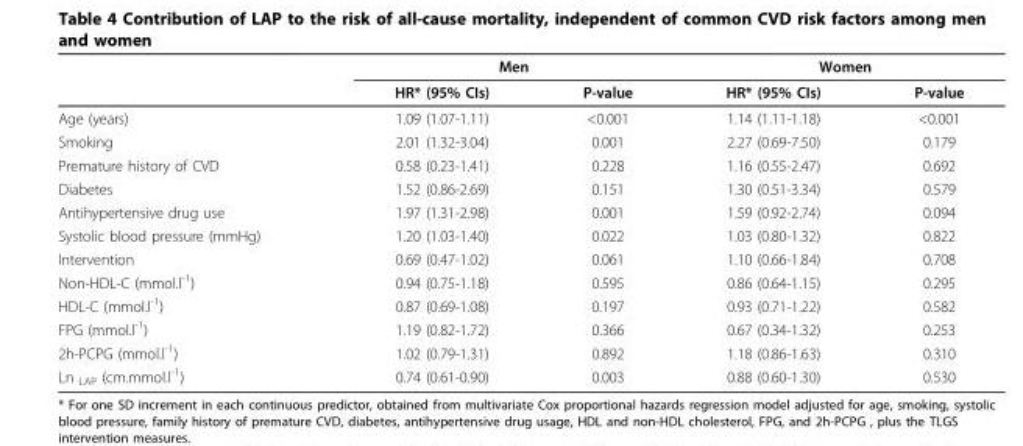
<table><thead><tr><td rowspan="2"></td><td colspan="2">Men</td><td colspan="2">Women</td></tr><tr><td>HR* (95% CIs)</td><td>P-value</td><td>HR* (95% CIs)</td><td>P-value</td></tr></thead><tbody><tr><td>Age (years)</td><td>1.09 (1.07-1.11)</td><td>&lt;0.001</td><td>1.14 (1.11-1.18)</td><td>&lt;0.001</td></tr><tr><td>Smoking</td><td>2.01 (1.32-3.04)</td><td>0.001</td><td>2.27 (0.69-7.50)</td><td>0.179</td></tr><tr><td>Premature history of CVD</td><td>0.58 (0.23-1.41)</td><td>0.228</td><td>1.16 (0.55-2.47)</td><td>0.692</td></tr><tr><td>Diabetes</td><td>1.52 (0.86-2.69)</td><td>0.151</td><td>1.30 (0.51-3.34)</td><td>0.579</td></tr><tr><td>Antihypertensive drug use</td><td>1.97 (1.31-2.98)</td><td>0.001</td><td>1.59 (0.92-2.74)</td><td>0.094</td></tr><tr><td>Systolic blood pressure (mmHg)</td><td>1.20 (1.03-1.40)</td><td>0.022</td><td>1.03 (0.80-1.32)</td><td>0.822</td></tr><tr><td>Intervention</td><td>0.69 (0.47-1.02)</td><td>0.061</td><td>1.10 (0.66-1.84)</td><td>0.708</td></tr><tr><td>Non-HDL-C (mmol.l<sup>-1</sup>)</td><td>0.94 (0.75-1.18)</td><td>0.595</td><td>0.86 (0.64-1.15)</td><td>0.295</td></tr><tr><td>HDL-C (mmol.l<sup>-1</sup>)</td><td>0.87 (0.69-1.08)</td><td>0.197</td><td>0.93 (0.71-1.22)</td><td>0.582</td></tr><tr><td>FPG (mmol.l<sup>-1</sup>)</td><td>1.19 (0.82-1.72)</td><td>0.366</td><td>0.67 (0.34-1.32)</td><td>0.253</td></tr><tr><td>2h-PCPG (mmol.l<sup>-1</sup>)</td><td>1.02 (0.79-1.31)</td><td>0.892</td><td>1.18 (0.86-1.63)</td><td>0.310</td></tr><tr><td>Ln <sub>LAP</sub> (cm.mmol.l<sup>-1</sup>)</td><td>0.74 (0.61-0.90)</td><td>0.003</td><td>0.88 (0.60-1.30)</td><td>0.530</td></tr></tbody></table>